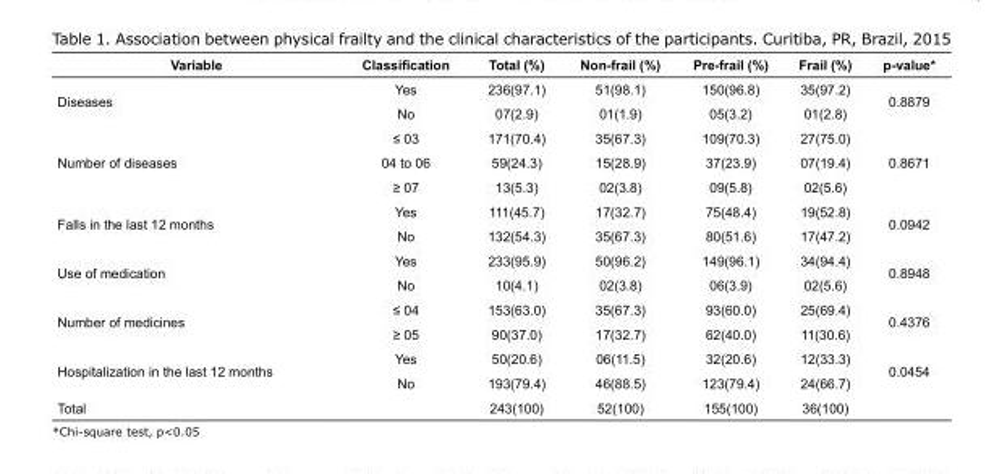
<table><tbody><tr><td>Variable</td><td>Classification</td><td>Total (%)</td><td>Non-frail (%)</td><td>Pre-frail (%)</td><td>Frail (%)</td><td>p-value*</td></tr><tr><td rowspan="2">Diseases</td><td>Yes</td><td>236(97.1)</td><td>51(98.1)</td><td>150(96.8)</td><td>35(97.2)</td><td rowspan="2">0.8879</td></tr><tr><td>No</td><td>07(2.9)</td><td>01(1.9)</td><td>05(3.2)</td><td>01(2.8)</td></tr><tr><td rowspan="3">Number of diseases</td><td>≤ 03</td><td>171(70.4)</td><td>35(67.3)</td><td>109(70.3)</td><td>27(75.0)</td><td rowspan="3">0.8671</td></tr><tr><td>04 to 06</td><td>59(24.3)</td><td>15(28.9)</td><td>37(23.9)</td><td>07(19.4)</td></tr><tr><td>≥ 07</td><td>13(5.3)</td><td>02(3.8)</td><td>09(5.8)</td><td>02(5.6)</td></tr><tr><td rowspan="2">Falls in the last 12 months</td><td>Yes</td><td>111(45.7)</td><td>17(32.7)</td><td>75(48.4)</td><td>19(52.8)</td><td rowspan="2">0.0942</td></tr><tr><td>No</td><td>132(54.3)</td><td>35(67.3)</td><td>80(51.6)</td><td>17(47.2)</td></tr><tr><td rowspan="2">Use of medication</td><td>Yes</td><td>233(95.9)</td><td>50(96.2)</td><td>149(96.1)</td><td>34(94.4)</td><td rowspan="2">0.8948</td></tr><tr><td>No</td><td>10(4.1)</td><td>02(3.8)</td><td>06(3.9)</td><td>02(5.6)</td></tr><tr><td rowspan="2">Number of medicines</td><td>≤ 04</td><td>153(63.0)</td><td>35(67.3)</td><td>93(60.0)</td><td>25(69.4)</td><td rowspan="2">0.4376</td></tr><tr><td>≥ 05</td><td>90(37.0)</td><td>17(32.7)</td><td>62(40.0)</td><td>11(30.6)</td></tr><tr><td rowspan="2">Hospitalization in the last 12 months</td><td>Yes</td><td>50(20.6)</td><td>06(11.5)</td><td>32(20.6)</td><td>12(33.3)</td><td rowspan="2">0.0454</td></tr><tr><td>No</td><td>193(79.4)</td><td>46(88.5)</td><td>123(79.4)</td><td>24(66.7)</td></tr><tr><td>Total</td><td></td><td>243(100)</td><td>52(100)</td><td>155(100)</td><td>36(100)</td><td></td></tr></tbody></table>